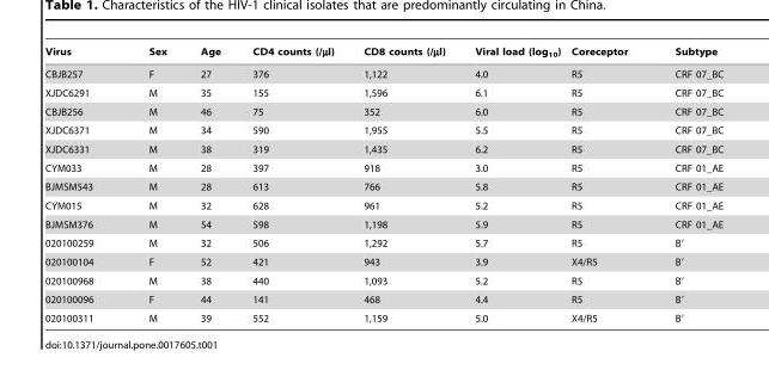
<table><thead><tr><td>Virus</td><td>Sex</td><td>Age</td><td>CD4 counts (/µl)</td><td>CD8 counts (/µl)</td><td>Viral load (log<sub>10</sub>)</td><td>Coreceptor</td><td>Subtype</td></tr></thead><tbody><tr><td>CBJB257</td><td>F</td><td>27</td><td>376</td><td>1,122</td><td>4.0</td><td>R5</td><td>CRF 07_BC</td></tr><tr><td>XJDC6291</td><td>M</td><td>35</td><td>155</td><td>1,596</td><td>6.1</td><td>R5</td><td>CRF 07_BC</td></tr><tr><td>CBJB256</td><td>M</td><td>46</td><td>75</td><td>352</td><td>6.0</td><td>R5</td><td>CRF 07_BC</td></tr><tr><td>XJDC6371</td><td>M</td><td>34</td><td>590</td><td>1,955</td><td>5.5</td><td>R5</td><td>CRF 07_BC</td></tr><tr><td>XJDC6331</td><td>M</td><td>38</td><td>319</td><td>1,435</td><td>6.2</td><td>R5</td><td>CRF 07_BC</td></tr><tr><td>CYM033</td><td>M</td><td>28</td><td>397</td><td>918</td><td>3.0</td><td>R5</td><td>CRF 01_AE</td></tr><tr><td>BJMSM543</td><td>M</td><td>28</td><td>613</td><td>766</td><td>5.8</td><td>R5</td><td>CRF 01_AE</td></tr><tr><td>CYM015</td><td>M</td><td>32</td><td>628</td><td>961</td><td>5.2</td><td>R5</td><td>CRF 01_AE</td></tr><tr><td>BJMSM376</td><td>M</td><td>54</td><td>598</td><td>1,198</td><td>5.9</td><td>R5</td><td>CRF 01_AE</td></tr><tr><td>020100259</td><td>M</td><td>32</td><td>506</td><td>1,292</td><td>5.7</td><td>R5</td><td>B′</td></tr><tr><td>020100104</td><td>F</td><td>52</td><td>421</td><td>943</td><td>3.9</td><td>X4/R5</td><td>B′</td></tr><tr><td>020100968</td><td>M</td><td>38</td><td>440</td><td>1,093</td><td>5.2</td><td>R5</td><td>B′</td></tr><tr><td>020100096</td><td>F</td><td>44</td><td>141</td><td>468</td><td>4.4</td><td>R5</td><td>B′</td></tr><tr><td>020100311</td><td>M</td><td>39</td><td>552</td><td>1,159</td><td>5.0</td><td>X4/R5</td><td>B′</td></tr></tbody></table>